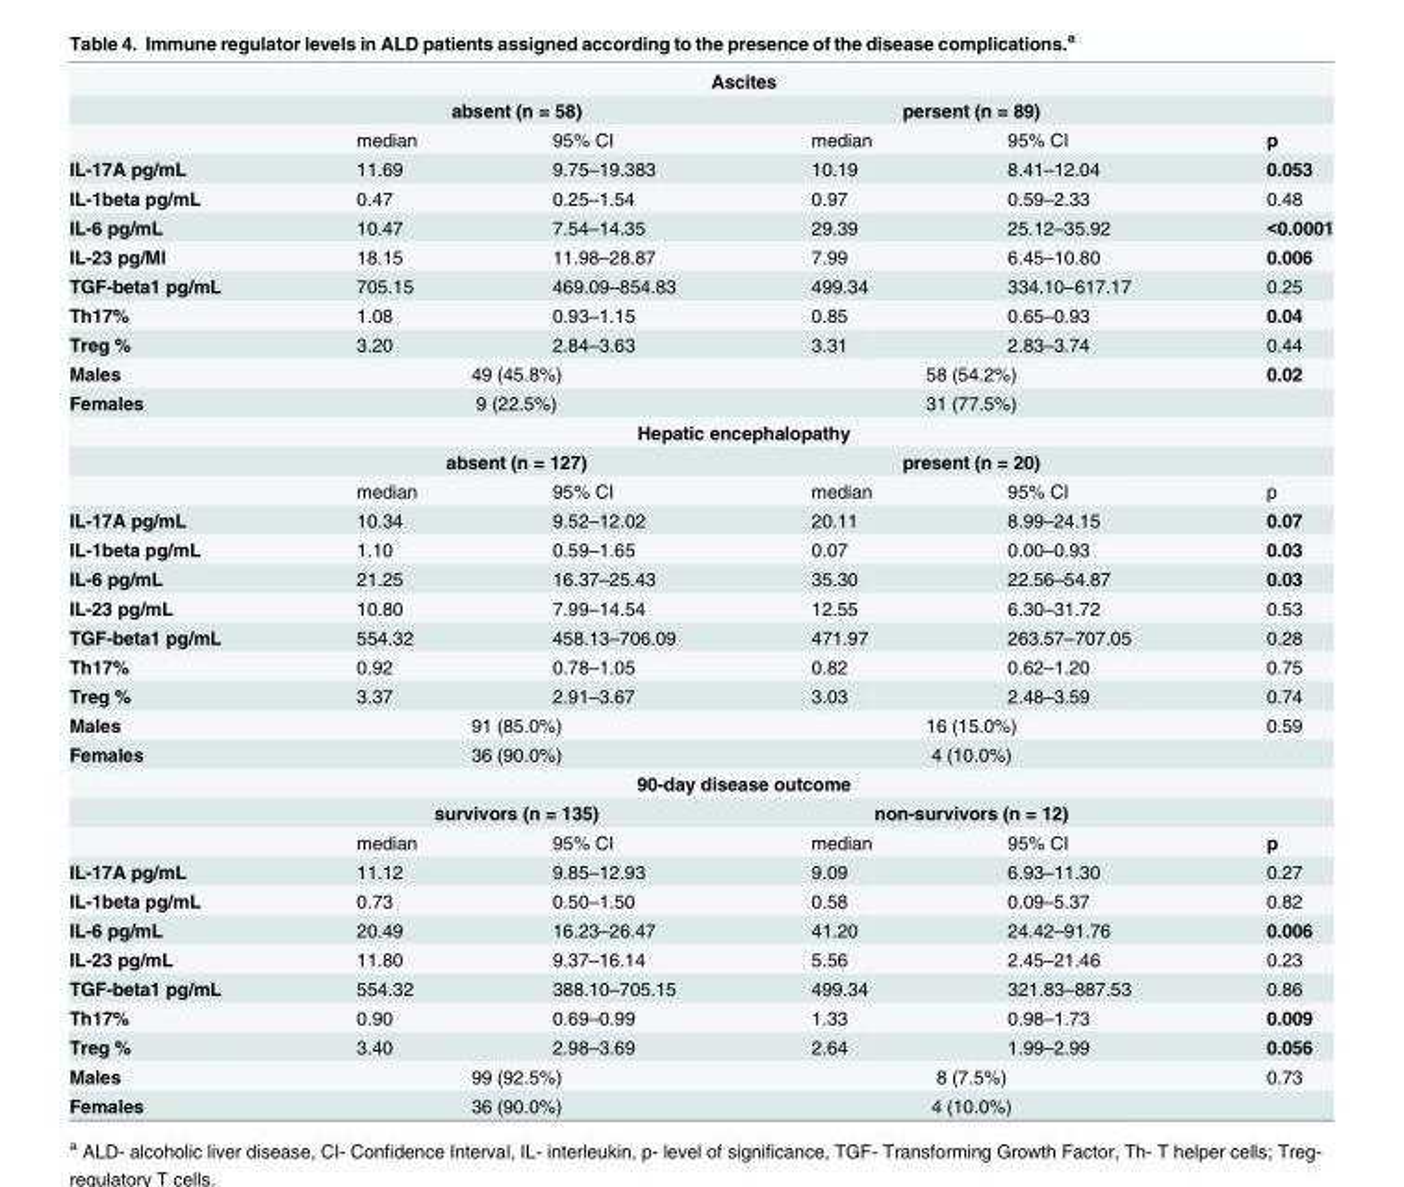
<table><thead><tr><td rowspan="3"></td><td colspan="4">Ascites</td><td rowspan="3">p</td></tr><tr><td colspan="2">absent (n = 58)</td><td colspan="2">persent (n = 89)</td></tr><tr><td>median</td><td>95% CI</td><td>median</td><td>95% CI</td></tr></thead><tbody><tr><td>IL-17A pg/mL</td><td>11.69</td><td>9.75–19.383</td><td>10.19</td><td>8.41–12.04</td><td>0.053</td></tr><tr><td>IL-1beta pg/mL</td><td>0.47</td><td>0.25–1.54</td><td>0.97</td><td>0.59–2.33</td><td>0.48</td></tr><tr><td>IL-6 pg/mL</td><td>10.47</td><td>7.54–14.35</td><td>29.39</td><td>25.12–35.92</td><td>&lt;0.0001</td></tr><tr><td>IL-23 pg/Ml</td><td>18.15</td><td>11.98–28.87</td><td>7.99</td><td>6.45–10.80</td><td>0.006</td></tr><tr><td>TGF-beta1 pg/mL</td><td>705.15</td><td>469.09–854.83</td><td>499.34</td><td>334.10–617.17</td><td>0.25</td></tr><tr><td>Th17%</td><td>1.08</td><td>0.93–1.15</td><td>0.85</td><td>0.65–0.93</td><td>0.04</td></tr><tr><td>Treg %</td><td>3.20</td><td>2.84–3.63</td><td>3.31</td><td>2.83–3.74</td><td>0.44</td></tr><tr><td>Males</td><td colspan="2">49 (45.8%)</td><td colspan="2">58 (54.2%)</td><td>0.02</td></tr><tr><td rowspan="4">Females</td><td colspan="2">9 (22.5%)</td><td colspan="2">31 (77.5%)</td><td></td></tr><tr><td colspan="4">Hepatic encephalopathy</td><td></td></tr><tr><td colspan="2">absent (n = 127)</td><td colspan="2">present (n = 20)</td><td></td></tr><tr><td>median</td><td>95% CI</td><td>median</td><td>95% CI</td><td>p</td></tr><tr><td>IL-17A pg/mL</td><td>10.34</td><td>9.52–12.02</td><td>20.11</td><td>8.99–24.15</td><td>0.07</td></tr><tr><td>IL-1beta pg/mL</td><td>1.10</td><td>0.59–1.65</td><td>0.07</td><td>0.00–0.93</td><td>0.03</td></tr><tr><td>IL-6 pg/mL</td><td>21.25</td><td>16.37–25.43</td><td>35.30</td><td>22.56–54.87</td><td>0.03</td></tr><tr><td>IL-23 pg/mL</td><td>10.80</td><td>7.99–14.54</td><td>12.55</td><td>6.30–31.72</td><td>0.53</td></tr><tr><td>TGF-beta1 pg/mL</td><td>554.32</td><td>458.13–706.09</td><td>471.97</td><td>263.57–707.05</td><td>0.28</td></tr><tr><td>Th17%</td><td>0.92</td><td>0.78–1.05</td><td>0.82</td><td>0.62–1.20</td><td>0.75</td></tr><tr><td>Treg %</td><td>3.37</td><td>2.91–3.67</td><td>3.03</td><td>2.48–3.59</td><td>0.74</td></tr><tr><td>Males</td><td colspan="2">91 (85.0%)</td><td colspan="2">16 (15.0%)</td><td>0.59</td></tr><tr><td rowspan="4">Females</td><td colspan="2">36 (90.0%)</td><td colspan="2">4 (10.0%)</td><td></td></tr><tr><td colspan="4">90-day disease outcome</td><td></td></tr><tr><td colspan="2">survivors (n = 135)</td><td colspan="2">non-survivors (n = 12)</td><td></td></tr><tr><td>median</td><td>95% CI</td><td>median</td><td>95% CI</td><td>p</td></tr><tr><td>IL-17A pg/mL</td><td>11.12</td><td>9.85–12.93</td><td>9.09</td><td>6.93–11.30</td><td>0.27</td></tr><tr><td>IL-1beta pg/mL</td><td>0.73</td><td>0.50–1.50</td><td>0.58</td><td>0.09–5.37</td><td>0.82</td></tr><tr><td>IL-6 pg/mL</td><td>20.49</td><td>16.23–26.47</td><td>41.20</td><td>24.42–91.76</td><td>0.006</td></tr><tr><td>IL-23 pg/mL</td><td>11.80</td><td>9.37–16.14</td><td>5.56</td><td>2.45–21.46</td><td>0.23</td></tr><tr><td>TGF-beta1 pg/mL</td><td>554.32</td><td>388.10–705.15</td><td>499.34</td><td>321.83–887.53</td><td>0.86</td></tr><tr><td>Th17%</td><td>0.90</td><td>0.69–0.99</td><td>1.33</td><td>0.98–1.73</td><td>0.009</td></tr><tr><td>Treg %</td><td>3.40</td><td>2.98–3.69</td><td>2.64</td><td>1.99–2.99</td><td>0.056</td></tr><tr><td>Males</td><td colspan="2">99 (92.5%)</td><td colspan="2">8 (7.5%)</td><td>0.73</td></tr><tr><td>Females</td><td colspan="2">36 (90.0%)</td><td colspan="2">4 (10.0%)</td><td></td></tr></tbody></table>